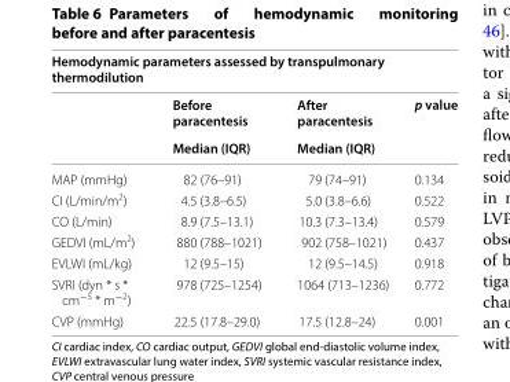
<table><thead><tr><td colspan="4">Hemodynamic parameters assessed by transpulmonary thermodilution</td></tr><tr><td rowspan="2"></td><td rowspan="2">Before paracentesis Median (IQR)</td><td rowspan="2">After paracentesis Median (IQR)</td><td rowspan="2">p value</td></tr><tr></tr></thead><tbody><tr><td>MAP (mmHg)</td><td>82 (76–91)</td><td>79 (74–91)</td><td>0.134</td></tr><tr><td>CI (L/min/m<sup>2</sup>)</td><td>4.5 (3.8–6.5)</td><td>5.0 (3.8–6.6)</td><td>0.522</td></tr><tr><td>CO (L/min)</td><td>8.9 (7.5–13.1)</td><td>10.3 (7.3–13.4)</td><td>0.579</td></tr><tr><td>GEDVI (mL/m<sup>2</sup>)</td><td>880 (788–1021)</td><td>902 (758–1021)</td><td>0.437</td></tr><tr><td>EVLWI (mL/kg)</td><td>12 (9.5–15)</td><td>12 (9.5–14.5)</td><td>0.918</td></tr><tr><td>SVRI (dyn * s * cm<sup>−5</sup> * m<sup>−2</sup>)</td><td>978 (725–1254)</td><td>1064 (713–1236)</td><td>0.772</td></tr><tr><td>CVP (mmHg)</td><td>22.5 (17.8–29.0)</td><td>17.5 (12.8–24)</td><td>0.001</td></tr></tbody></table>